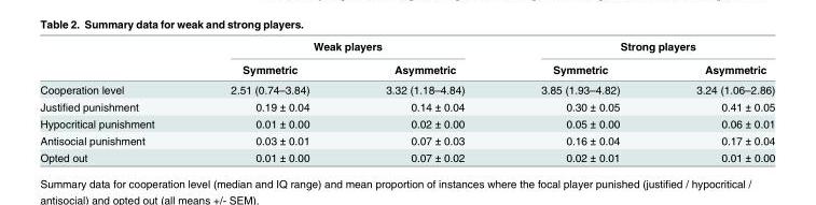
<table><thead><tr><td rowspan="2"></td><td colspan="2">Weak players</td><td colspan="2">Strong players</td></tr><tr><td>Symmetric</td><td>Asymmetric</td><td>Symmetric</td><td>Asymmetric</td></tr></thead><tbody><tr><td>Cooperation level</td><td>2.51 (0.74–3.84)</td><td>3.32 (1.18–4.84)</td><td>3.85 (1.93–4.82)</td><td>3.24 (1.06–2.86)</td></tr><tr><td>Justified punishment</td><td>0.19 ± 0.04</td><td>0.14 ± 0.04</td><td>0.30 ± 0.05</td><td>0.41 ± 0.05</td></tr><tr><td>Hypocritical punishment</td><td>0.01 ± 0.00</td><td>0.02 ± 0.00</td><td>0.05 ± 0.00</td><td>0.06 ± 0.01</td></tr><tr><td>Antisocial punishment</td><td>0.03 ± 0.01</td><td>0.07 ± 0.03</td><td>0.16 ± 0.04</td><td>0.17 ± 0.04</td></tr><tr><td>Opted out</td><td>0.01 ± 0.00</td><td>0.07 ± 0.02</td><td>0.02 ± 0.01</td><td>0.01 ± 0.00</td></tr></tbody></table>